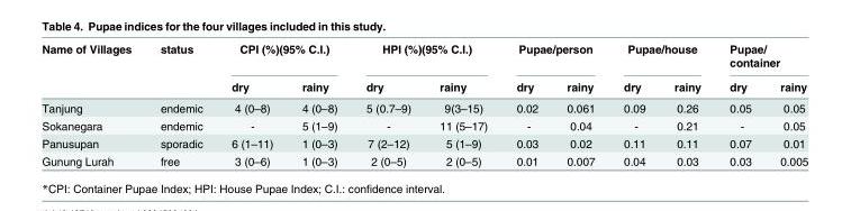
<table><thead><tr><td rowspan="2">Name of Villages</td><td rowspan="2">status</td><td colspan="2">CPI (%)(95% C.I.)</td><td colspan="2">HPI (%)(95% C.I.)</td><td colspan="2">Pupae/person</td><td colspan="2">Pupae/house</td><td colspan="2">Pupae/ container</td></tr><tr><td>dry</td><td>rainy</td><td>dry</td><td>rainy</td><td>dry</td><td>rainy</td><td>dry</td><td>rainy</td><td>dry</td><td>rainy</td></tr></thead><tbody><tr><td>Tanjung</td><td>endemic</td><td>4 (0–8)</td><td>4 (0–8)</td><td>5 (0.7–9)</td><td>9(3–15)</td><td>0.02</td><td>0.061</td><td>0.09</td><td>0.26</td><td>0.05</td><td>0.05</td></tr><tr><td>Sokanegara</td><td>endemic</td><td>-</td><td>5 (1–9)</td><td>-</td><td>11 (5–17)</td><td>-</td><td>0.04</td><td>-</td><td>0.21</td><td>-</td><td>0.05</td></tr><tr><td>Panusupan</td><td>sporadic</td><td>6 (1–11)</td><td>1 (0–3)</td><td>7 (2–12)</td><td>5 (1–9)</td><td>0.03</td><td>0.02</td><td>0.11</td><td>0.11</td><td>0.07</td><td>0.01</td></tr><tr><td>Gunung Lurah</td><td>free</td><td>3 (0–6)</td><td>1 (0–3)</td><td>2 (0–5)</td><td>2 (0–5)</td><td>0.01</td><td>0.007</td><td>0.04</td><td>0.03</td><td>0.03</td><td>0.005</td></tr></tbody></table>